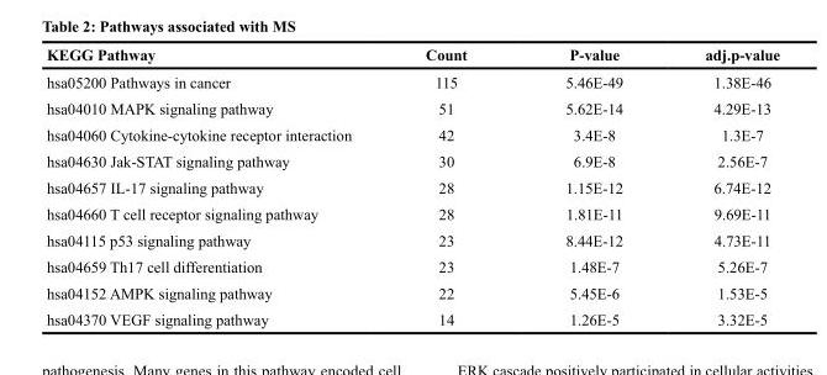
<table><thead><tr><td>KEGG Pathway</td><td>Count</td><td>P-value</td><td>adj.p-value</td></tr></thead><tbody><tr><td>hsa05200 Pathways in cancer</td><td>115</td><td>5.46E-49</td><td>1.38E-46</td></tr><tr><td>hsa04010 MAPK signaling pathway</td><td>51</td><td>5.62E-14</td><td>4.29E-13</td></tr><tr><td>hsa04060 Cytokine-cytokine receptor interaction</td><td>42</td><td>3.4E-8</td><td>1.3E-7</td></tr><tr><td>hsa04630 Jak-STAT signaling pathway</td><td>30</td><td>6.9E-8</td><td>2.56E-7</td></tr><tr><td>hsa04657 IL-17 signaling pathway</td><td>28</td><td>1.15E-12</td><td>6.74E-12</td></tr><tr><td>hsa04660 T cell receptor signaling pathway</td><td>28</td><td>1.81E-11</td><td>9.69E-11</td></tr><tr><td>hsa04115 p53 signaling pathway</td><td>23</td><td>8.44E-12</td><td>4.73E-11</td></tr><tr><td>hsa04659 Th17 cell differentiation</td><td>23</td><td>1.48E-7</td><td>5.26E-7</td></tr><tr><td>hsa04152 AMPK signaling pathway</td><td>22</td><td>5.45E-6</td><td>1.53E-5</td></tr><tr><td>hsa04370 VEGF signaling pathway</td><td>14</td><td>1.26E-5</td><td>3.32E-5</td></tr></tbody></table>